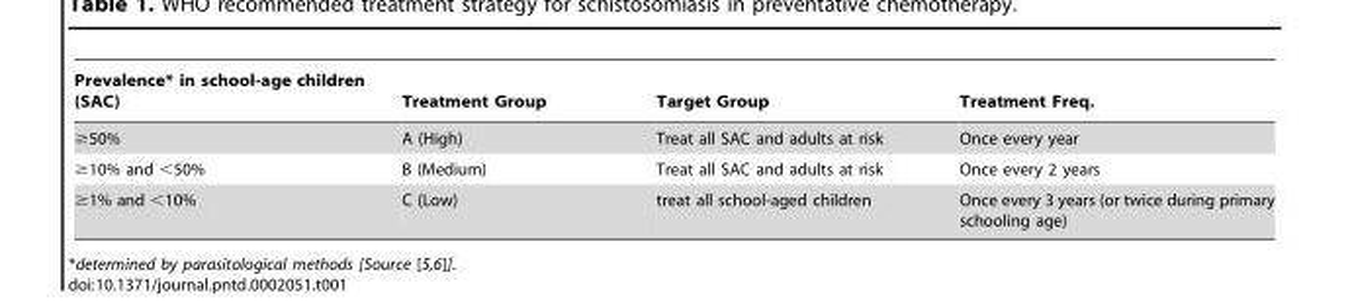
<table><thead><tr><td>Prevalence* in school-age children (SAC)</td><td>Treatment Group</td><td>Target Group</td><td>Treatment Freq.</td></tr></thead><tbody><tr><td>≥50%</td><td>A (High)</td><td>Treat all SAC and adults at risk</td><td>Once every year</td></tr><tr><td>≥10% and &lt;50%</td><td>B (Medium)</td><td>Treat all SAC and adults at risk</td><td>Once every 2 years</td></tr><tr><td>≥1% and &lt;10%</td><td>C (Low)</td><td>treat all school-aged children</td><td>Once every 3 years (or twice during primary schooling age)</td></tr></tbody></table>